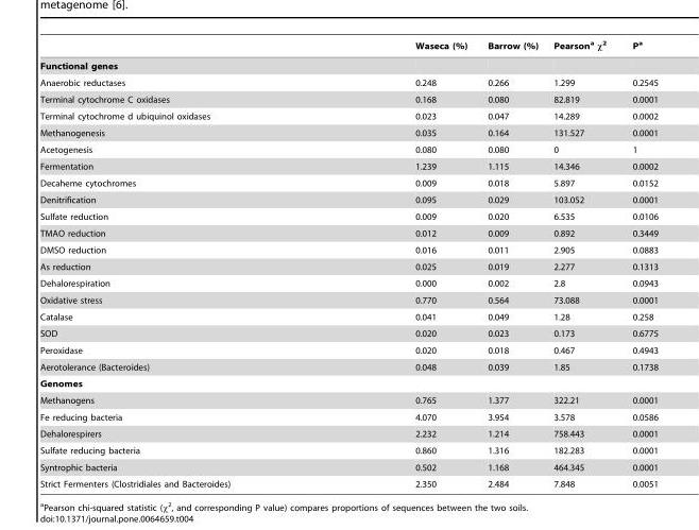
<table><thead><tr><td></td><td>Waseca (%)</td><td>Barrow (%)</td><td>Pearson<sup>a</sup> χ<sup>2</sup></td><td>P<sup>a</sup></td></tr></thead><tbody><tr><td colspan="5">Functional genes</td></tr><tr><td>Anaerobic reductases</td><td>0.248</td><td>0.266</td><td>1.299</td><td>0.2545</td></tr><tr><td>Terminal cytochrome C oxidases</td><td>0.168</td><td>0.080</td><td>82.819</td><td>0.0001</td></tr><tr><td>Terminal cytochrome d ubiquinol oxidases</td><td>0.023</td><td>0.047</td><td>14.289</td><td>0.0002</td></tr><tr><td>Methanogenesis</td><td>0.035</td><td>0.164</td><td>131.527</td><td>0.0001</td></tr><tr><td>Acetogenesis</td><td>0.080</td><td>0.080</td><td>0</td><td>1</td></tr><tr><td>Fermentation</td><td>1.239</td><td>1.115</td><td>14.346</td><td>0.0002</td></tr><tr><td>Decaheme cytochromes</td><td>0.009</td><td>0.018</td><td>5.897</td><td>0.0152</td></tr><tr><td>Denitrification</td><td>0.095</td><td>0.029</td><td>103.052</td><td>0.0001</td></tr><tr><td>Sulfate reduction</td><td>0.009</td><td>0.020</td><td>6.535</td><td>0.0106</td></tr><tr><td>TMAO reduction</td><td>0.012</td><td>0.009</td><td>0.892</td><td>0.3449</td></tr><tr><td>DMSO reduction</td><td>0.016</td><td>0.011</td><td>2.905</td><td>0.0883</td></tr><tr><td>As reduction</td><td>0.025</td><td>0.019</td><td>2.277</td><td>0.1313</td></tr><tr><td>Dehalorespiration</td><td>0.000</td><td>0.002</td><td>2.8</td><td>0.0943</td></tr><tr><td>Oxidative stress</td><td>0.770</td><td>0.564</td><td>73.088</td><td>0.0001</td></tr><tr><td>Catalase</td><td>0.041</td><td>0.049</td><td>1.28</td><td>0.258</td></tr><tr><td>SOD</td><td>0.020</td><td>0.023</td><td>0.173</td><td>0.6775</td></tr><tr><td>Peroxidase</td><td>0.020</td><td>0.018</td><td>0.467</td><td>0.4943</td></tr><tr><td>Aerotolerance (Bacteroides)</td><td>0.048</td><td>0.039</td><td>1.85</td><td>0.1738</td></tr><tr><td colspan="5">Genomes</td></tr><tr><td>Methanogens</td><td>0.765</td><td>1.377</td><td>322.21</td><td>0.0001</td></tr><tr><td>Fe reducing bacteria</td><td>4.070</td><td>3.954</td><td>3.578</td><td>0.0586</td></tr><tr><td>Dehalorespirers</td><td>2.232</td><td>1.214</td><td>758.443</td><td>0.0001</td></tr><tr><td>Sulfate reducing bacteria</td><td>0.860</td><td>1.316</td><td>182.283</td><td>0.0001</td></tr><tr><td>Syntrophic bacteria</td><td>0.502</td><td>1.168</td><td>464.345</td><td>0.0001</td></tr><tr><td>Strict Fermenters (Clostridiales and Bacteroides)</td><td>2.350</td><td>2.484</td><td>7.848</td><td>0.0051</td></tr></tbody></table>